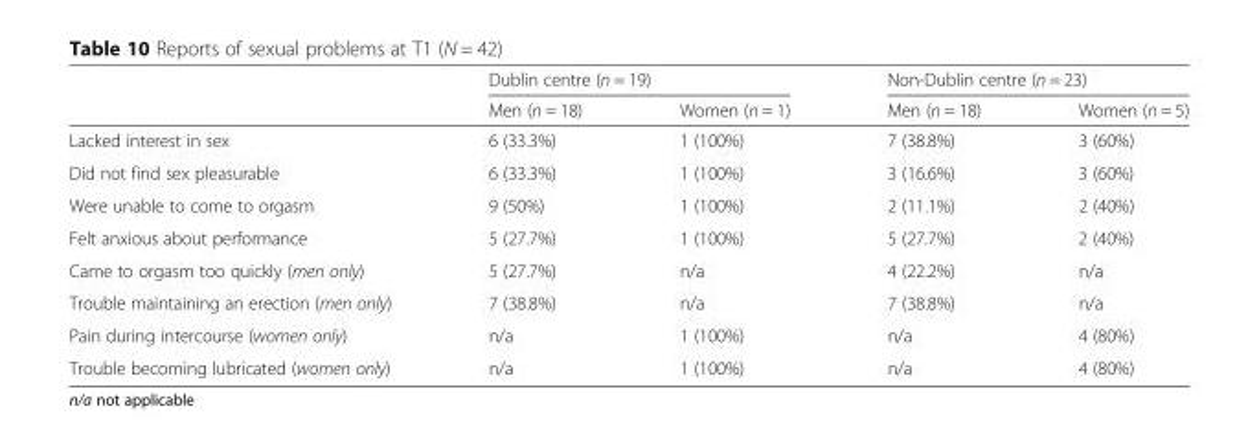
<table><thead><tr><td rowspan="2"></td><td colspan="2">Dublin centre (n = 19)</td><td colspan="2">Non-Dublin centre (n = 23)</td></tr><tr><td>Men (n = 18)</td><td>Women (n = 1)</td><td>Men (n = 18)</td><td>Women (n = 5)</td></tr></thead><tbody><tr><td>Lacked interest in sex</td><td>6 (33.3%)</td><td>1 (100%)</td><td>7 (38.8%)</td><td>3 (60%)</td></tr><tr><td>Did not find sex pleasurable</td><td>6 (33.3%)</td><td>1 (100%)</td><td>3 (16.6%)</td><td>3 (60%)</td></tr><tr><td>Were unable to come to orgasm</td><td>9 (50%)</td><td>1 (100%)</td><td>2 (11.1%)</td><td>2 (40%)</td></tr><tr><td>Felt anxious about performance</td><td>5 (27.7%)</td><td>1 (100%)</td><td>5 (27.7%)</td><td>2 (40%)</td></tr><tr><td>Came to orgasm too quickly (men only)</td><td>5 (27.7%)</td><td>n/a</td><td>4 (22.2%)</td><td>n/a</td></tr><tr><td>Trouble maintaining an erection (men only)</td><td>7 (38.8%)</td><td>n/a</td><td>7 (38.8%)</td><td>n/a</td></tr><tr><td>Pain during intercourse (women only)</td><td>n/a</td><td>1 (100%)</td><td>n/a</td><td>4 (80%)</td></tr><tr><td>Trouble becoming lubricated (women only)</td><td>n/a</td><td>1 (100%)</td><td>n/a</td><td>4 (80%)</td></tr></tbody></table>